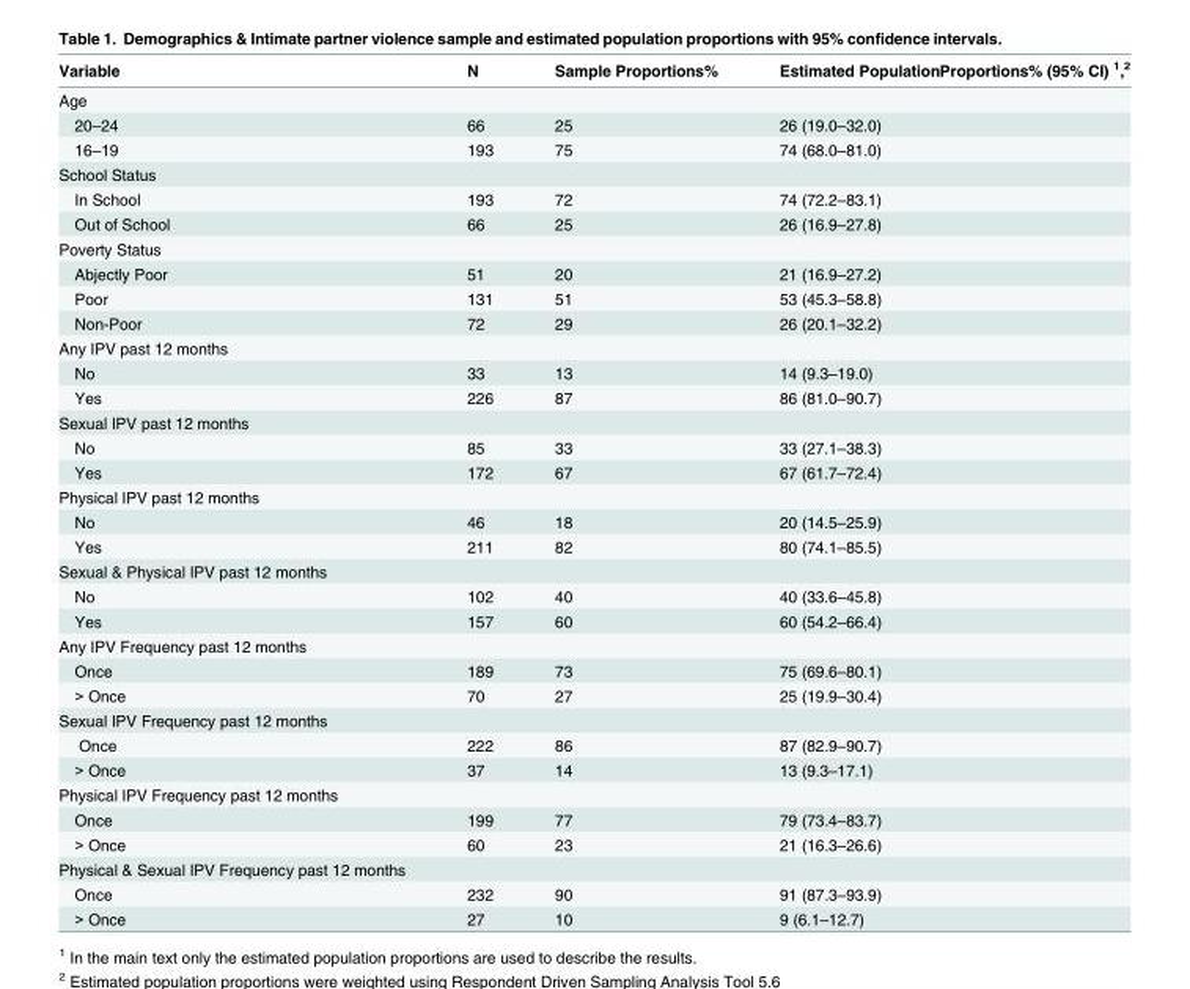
<table><thead><tr><td>Variable</td><td>N</td><td>Sample Proportions%</td><td>Estimated PopulationProportions% (95% CI) <sup>1</sup>,<sup>2</sup></td></tr></thead><tbody><tr><td colspan="4">Age</td></tr><tr><td>20–24</td><td>66</td><td>25</td><td>26 (19.0–32.0)</td></tr><tr><td>16–19</td><td>193</td><td>75</td><td>74 (68.0–81.0)</td></tr><tr><td colspan="4">School Status</td></tr><tr><td>In School</td><td>193</td><td>72</td><td>74 (72.2–83.1)</td></tr><tr><td>Out of School</td><td>66</td><td>25</td><td>26 (16.9–27.8)</td></tr><tr><td colspan="4">Poverty Status</td></tr><tr><td>Abjectly Poor</td><td>51</td><td>20</td><td>21 (16.9–27.2)</td></tr><tr><td>Poor</td><td>131</td><td>51</td><td>53 (45.3–58.8)</td></tr><tr><td>Non-Poor</td><td>72</td><td>29</td><td>26 (20.1–32.2)</td></tr><tr><td colspan="4">Any IPV past 12 months</td></tr><tr><td>No</td><td>33</td><td>13</td><td>14 (9.3–19.0)</td></tr><tr><td>Yes</td><td>226</td><td>87</td><td>86 (81.0–90.7)</td></tr><tr><td colspan="4">Sexual IPV past 12 months</td></tr><tr><td>No</td><td>85</td><td>33</td><td>33 (27.1–38.3)</td></tr><tr><td>Yes</td><td>172</td><td>67</td><td>67 (61.7–72.4)</td></tr><tr><td colspan="4">Physical IPV past 12 months</td></tr><tr><td>No</td><td>46</td><td>18</td><td>20 (14.5–25.9)</td></tr><tr><td>Yes</td><td>211</td><td>82</td><td>80 (74.1–85.5)</td></tr><tr><td colspan="4">Sexual &amp; Physical IPV past 12 months</td></tr><tr><td>No</td><td>102</td><td>40</td><td>40 (33.6–45.8)</td></tr><tr><td>Yes</td><td>157</td><td>60</td><td>60 (54.2–66.4)</td></tr><tr><td colspan="4">Any IPV Frequency past 12 months</td></tr><tr><td>Once</td><td>189</td><td>73</td><td>75 (69.6–80.1)</td></tr><tr><td>&gt; Once</td><td>70</td><td>27</td><td>25 (19.9–30.4)</td></tr><tr><td colspan="4">Sexual IPV Frequency past 12 months</td></tr><tr><td>Once</td><td>222</td><td>86</td><td>87 (82.9–90.7)</td></tr><tr><td>&gt; Once</td><td>37</td><td>14</td><td>13 (9.3–17.1)</td></tr><tr><td colspan="4">Physical IPV Frequency past 12 months</td></tr><tr><td>Once</td><td>199</td><td>77</td><td>79 (73.4–83.7)</td></tr><tr><td>&gt; Once</td><td>60</td><td>23</td><td>21 (16.3–26.6)</td></tr><tr><td colspan="4">Physical &amp; Sexual IPV Frequency past 12 months</td></tr><tr><td>Once</td><td>232</td><td>90</td><td>91 (87.3–93.9)</td></tr><tr><td>&gt; Once</td><td>27</td><td>10</td><td>9 (6.1–12.7)</td></tr></tbody></table>